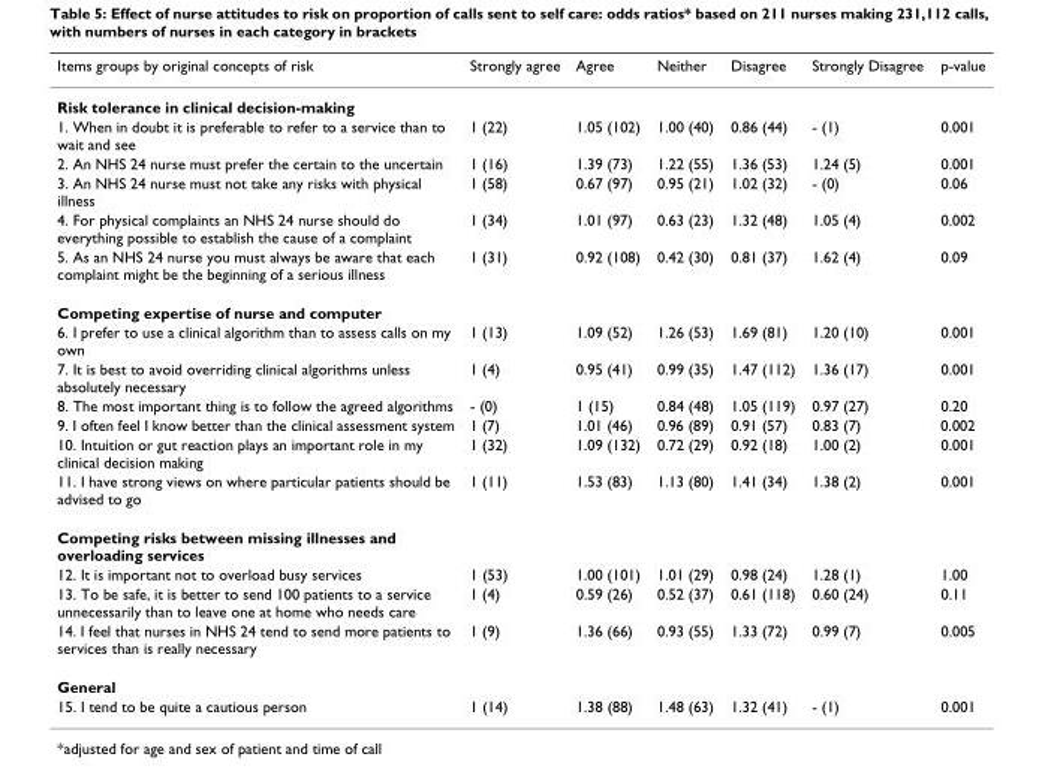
<table><thead><tr><td>Items groups by original concepts of risk</td><td>Strongly agree</td><td>Agree</td><td>Neither</td><td>Disagree</td><td>Strongly Disagree</td><td>p-value</td></tr></thead><tbody><tr><td colspan="7">Risk tolerance in clinical decision-making</td></tr><tr><td>1. When in doubt it is preferable to refer to a service than to wait and see</td><td>1 (22)</td><td>1.05 (102)</td><td>1.00 (40)</td><td>0.86 (44)</td><td>- (1)</td><td>0.001</td></tr><tr><td>2. An NHS 24 nurse must prefer the certain to the uncertain</td><td>1 (16)</td><td>1.39 (73)</td><td>1.22 (55)</td><td>1.36 (53)</td><td>1.24 (5)</td><td>0.001</td></tr><tr><td>3. An NHS 24 nurse must not take any risks with physical illness</td><td>1 (58)</td><td>0.67 (97)</td><td>0.95 (21)</td><td>1.02 (32)</td><td>- (0)</td><td>0.06</td></tr><tr><td>4. For physical complaints an NHS 24 nurse should do everything possible to establish the cause of a complaint</td><td>1 (34)</td><td>1.01 (97)</td><td>0.63 (23)</td><td>1.32 (48)</td><td>1.05 (4)</td><td>0.002</td></tr><tr><td>5. As an NHS 24 nurse you must always be aware that each complaint might be the beginning of a serious illness</td><td>1 (31)</td><td>0.92 (108)</td><td>0.42 (30)</td><td>0.81 (37)</td><td>1.62 (4)</td><td>0.09</td></tr><tr><td colspan="7">Competing expertise of nurse and computer</td></tr><tr><td>6. I prefer to use a clinical algorithm than to assess calls on my own</td><td>1 (13)</td><td>1.09 (52)</td><td>1.26 (53)</td><td>1.69 (81)</td><td>1.20 (10)</td><td>0.001</td></tr><tr><td>7. It is best to avoid overriding clinical algorithms unless absolutely necessary</td><td>1 (4)</td><td>0.95 (41)</td><td>0.99 (35)</td><td>1.47 (112)</td><td>1.36 (17)</td><td>0.001</td></tr><tr><td>8. The most important thing is to follow the agreed algorithms</td><td>- (0)</td><td>1 (15)</td><td>0.84 (48)</td><td>1.05 (119)</td><td>0.97 (27)</td><td>0.20</td></tr><tr><td>9. I often feel I know better than the clinical assessment system</td><td>1 (7)</td><td>1.01 (46)</td><td>0.96 (89)</td><td>0.91 (57)</td><td>0.83 (7)</td><td>0.002</td></tr><tr><td>10. Intuition or gut reaction plays an important role in my clinical decision making</td><td>1 (32)</td><td>1.09 (132)</td><td>0.72 (29)</td><td>0.92 (18)</td><td>1.00 (2)</td><td>0.001</td></tr><tr><td>11. I have strong views on where particular patients should be advised to go</td><td>1 (11)</td><td>1.53 (83)</td><td>1.13 (80)</td><td>1.41 (34)</td><td>1.38 (2)</td><td>0.001</td></tr><tr><td colspan="7">Competing risks between missing illnesses and overloading services</td></tr><tr><td>12. It is important not to overload busy services</td><td>1 (53)</td><td>1.00 (101)</td><td>1.01 (29)</td><td>0.98 (24)</td><td>1.28 (1)</td><td>1.00</td></tr><tr><td>13. To be safe, it is better to send 100 patients to a service unnecessarily than to leave one at home who needs care</td><td>1 (4)</td><td>0.59 (26)</td><td>0.52 (37)</td><td>0.61 (118)</td><td>0.60 (24)</td><td>0.11</td></tr><tr><td>14. I feel that nurses in NHS 24 tend to send more patients to services than is really necessary</td><td>1 (9)</td><td>1.36 (66)</td><td>0.93 (55)</td><td>1.33 (72)</td><td>0.99 (7)</td><td>0.005</td></tr><tr><td colspan="7">General</td></tr><tr><td>15. I tend to be quite a cautious person</td><td>1 (14)</td><td>1.38 (88)</td><td>1.48 (63)</td><td>1.32 (41)</td><td>- (1)</td><td>0.001</td></tr></tbody></table>